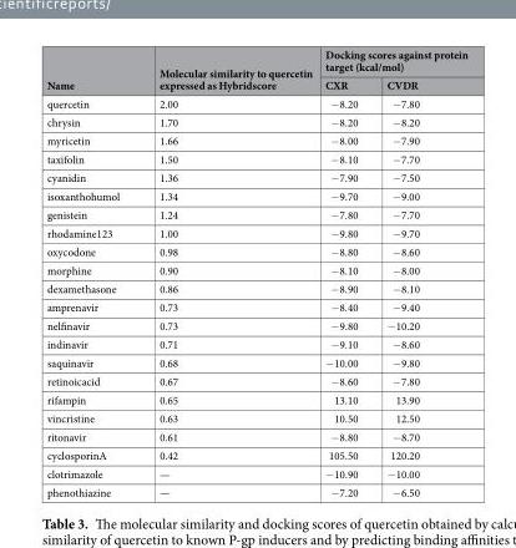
<table><thead><tr><td rowspan="2">Name</td><td rowspan="2">Molecular similarity to quercetin expressed as Hybridscore</td><td colspan="2">Docking scores against protein target (kcal/mol)</td></tr><tr><td>CXR</td><td>CVDR</td></tr></thead><tbody><tr><td>quercetin</td><td>2.00</td><td>−8.20</td><td>−7.80</td></tr><tr><td>chrysin</td><td>1.70</td><td>−8.20</td><td>−8.20</td></tr><tr><td>myricetin</td><td>1.66</td><td>−8.00</td><td>−7.90</td></tr><tr><td>taxifolin</td><td>1.50</td><td>−8.10</td><td>−7.70</td></tr><tr><td>cyanidin</td><td>1.36</td><td>−7.90</td><td>−7.50</td></tr><tr><td>isoxanthohumol</td><td>1.34</td><td>−9.70</td><td>−9.00</td></tr><tr><td>genistein</td><td>1.24</td><td>−7.80</td><td>−7.70</td></tr><tr><td>rhodamine123</td><td>1.00</td><td>−9.80</td><td>−9.70</td></tr><tr><td>oxycodone</td><td>0.98</td><td>−8.80</td><td>−8.60</td></tr><tr><td>morphine</td><td>0.90</td><td>−8.10</td><td>−8.00</td></tr><tr><td>dexamethasone</td><td>0.86</td><td>−8.90</td><td>−8.10</td></tr><tr><td>amprenavir</td><td>0.73</td><td>−8.40</td><td>−9.40</td></tr><tr><td>nelfinavir</td><td>0.73</td><td>−9.80</td><td>−10.20</td></tr><tr><td>indinavir</td><td>0.71</td><td>−9.10</td><td>−8.60</td></tr><tr><td>saquinavir</td><td>0.68</td><td>−10.00</td><td>−9.80</td></tr><tr><td>retinoicacid</td><td>0.67</td><td>−8.60</td><td>−7.80</td></tr><tr><td>rifampin</td><td>0.65</td><td>13.10</td><td>13.90</td></tr><tr><td>vincristine</td><td>0.63</td><td>10.50</td><td>12.50</td></tr><tr><td>ritonavir</td><td>0.61</td><td>−8.80</td><td>−8.70</td></tr><tr><td>cyclosporinA</td><td>0.42</td><td>105.50</td><td>120.20</td></tr><tr><td>clotrimazole</td><td>—</td><td>−10.90</td><td>−10.00</td></tr><tr><td>phenothiazine</td><td>—</td><td>−7.20</td><td>−6.50</td></tr></tbody></table>